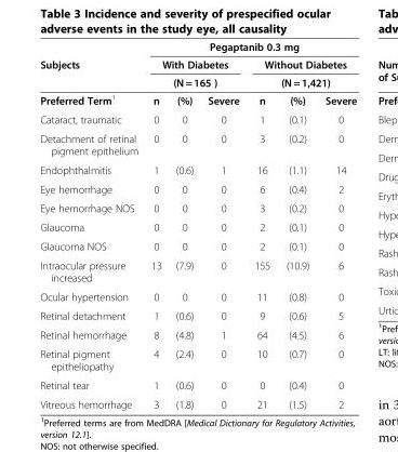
<table><thead><tr><td rowspan="4">Subjects Preferred Term<sup>1</sup></td><td colspan="6">Pegaptanib 0.3 mg</td></tr><tr><td rowspan="2" colspan="3">With Diabetes (N = 165 )</td><td rowspan="2" colspan="3">Without Diabetes (N = 1,421)</td></tr><tr></tr><tr><td>n</td><td>(%)</td><td>Severe</td><td>n</td><td>(%)</td><td>Severe</td></tr></thead><tbody><tr><td>Cataract, traumatic</td><td>0</td><td>0</td><td>0</td><td>1</td><td>(0.1)</td><td>0</td></tr><tr><td>Detachment of retinal pigment epithelium</td><td>0</td><td>0</td><td>0</td><td>3</td><td>(0.2)</td><td>0</td></tr><tr><td>Endophthalmitis</td><td>1</td><td>(0.6)</td><td>1</td><td>16</td><td>(1.1)</td><td>14</td></tr><tr><td>Eye hemorrhage</td><td>0</td><td>0</td><td>0</td><td>6</td><td>(0.4)</td><td>2</td></tr><tr><td>Eye hemorrhage NOS</td><td>0</td><td>0</td><td>0</td><td>3</td><td>(0.2)</td><td>0</td></tr><tr><td>Glaucoma</td><td>0</td><td>0</td><td>0</td><td>2</td><td>(0.1)</td><td>0</td></tr><tr><td>Glaucoma NOS</td><td>0</td><td>0</td><td>0</td><td>2</td><td>(0.1)</td><td>0</td></tr><tr><td>Intraocular pressure increased</td><td>13</td><td>(7.9)</td><td>0</td><td>155</td><td>(10.9)</td><td>6</td></tr><tr><td>Ocular hypertension</td><td>0</td><td>0</td><td>0</td><td>11</td><td>(0.8)</td><td>0</td></tr><tr><td>Retinal detachment</td><td>1</td><td>(0.6)</td><td>0</td><td>9</td><td>(0.6)</td><td>5</td></tr><tr><td>Retinal hemorrhage</td><td>8</td><td>(4.8)</td><td>1</td><td>64</td><td>(4.5)</td><td>6</td></tr><tr><td>Retinal pigment epitheliopathy</td><td>4</td><td>(2.4)</td><td>0</td><td>10</td><td>(0.7)</td><td>0</td></tr><tr><td>Retinal tear</td><td>1</td><td>(0.6)</td><td>0</td><td>0</td><td>(0.4)</td><td>0</td></tr><tr><td>Vitreous hemorrhage</td><td>3</td><td>(1.8)</td><td>0</td><td>21</td><td>(1.5)</td><td>2</td></tr></tbody></table>